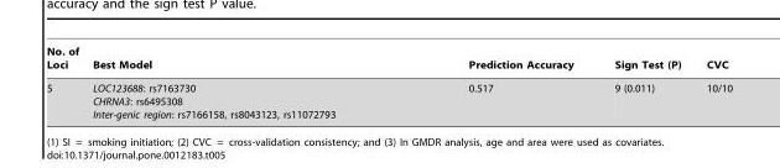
<table><thead><tr><td>No. of Loci</td><td>Best Model</td><td>Prediction Accuracy</td><td>Sign Test (P)</td><td>CVC</td></tr></thead><tbody><tr><td>5</td><td>LOC123688: rs7163730 CHRNA3: rs6495308 Inter-genic region: rs7166158, rs8043123, rs11072793</td><td>0.517</td><td>9 (0.011)</td><td>10/10</td></tr></tbody></table>